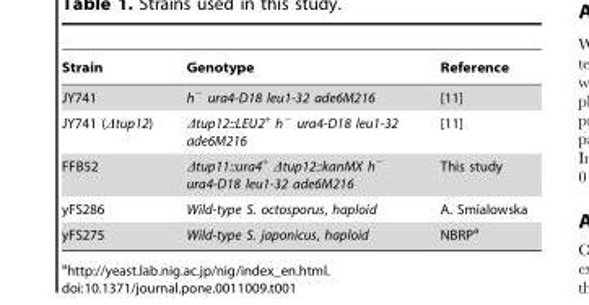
<table><thead><tr><td>Strain</td><td>Genotype</td><td>Reference</td></tr></thead><tbody><tr><td>JY741</td><td>h<sup>−</sup> ura4-D18 leu1-32 ade6M216</td><td>[11]</td></tr><tr><td>JY741 (Δtup12)</td><td>Δtup12::LEU2<sup>+</sup> h<sup>−</sup> ura4-D18 leu1-32 ade6M216</td><td>[11]</td></tr><tr><td>FFB52</td><td>Δtup11::ura4<sup>+</sup> Δtup12::kanMX h<sup>−</sup> ura4-D18 leu1-32 ade6M216</td><td>This study</td></tr><tr><td>yFS286</td><td>Wild-type S. octosporus, haploid</td><td>A. Smialowska</td></tr><tr><td>yFS275</td><td>Wild-type S. japonicus, haploid</td><td>NBRP<sup>a</sup></td></tr></tbody></table>